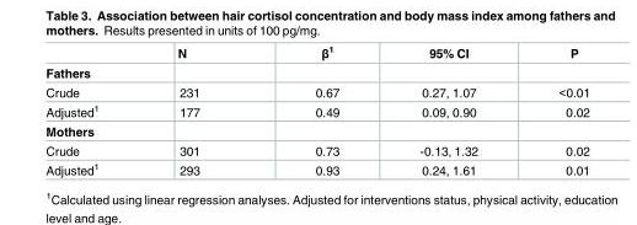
<table><thead><tr><td></td><td>N</td><td>β<sup>1</sup></td><td>95% CI</td><td>P</td></tr></thead><tbody><tr><td colspan="5">Fathers</td></tr><tr><td>Crude</td><td>231</td><td>0.67</td><td>0.27, 1.07</td><td>&lt;0.01</td></tr><tr><td>Adjusted<sup>1</sup></td><td>177</td><td>0.49</td><td>0.09, 0.90</td><td>0.02</td></tr><tr><td colspan="5">Mothers</td></tr><tr><td>Crude</td><td>301</td><td>0.73</td><td>-0.13, 1.32</td><td>0.02</td></tr><tr><td>Adjusted<sup>1</sup></td><td>293</td><td>0.93</td><td>0.24, 1.61</td><td>0.01</td></tr></tbody></table>